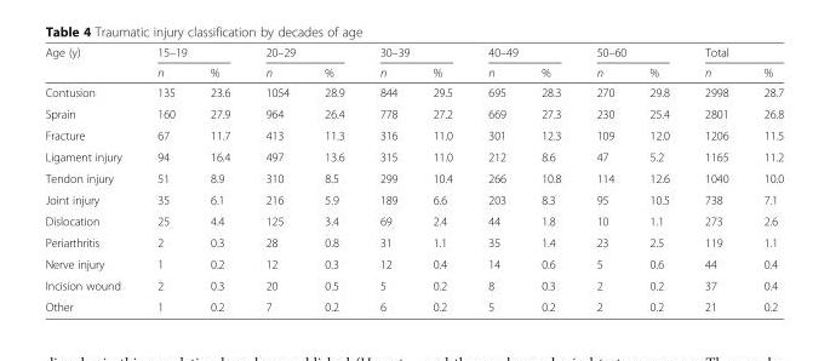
<table><thead><tr><td rowspan="2">Age (y)</td><td colspan="2">15–19</td><td colspan="2">20–29</td><td colspan="2">30–39</td><td colspan="2">40–49</td><td colspan="2">50–60</td><td colspan="2">Total</td></tr><tr><td>n</td><td>%</td><td>n</td><td>%</td><td>n</td><td>%</td><td>n</td><td>%</td><td>n</td><td>%</td><td>n</td><td>%</td></tr></thead><tbody><tr><td>Contusion</td><td>135</td><td>23.6</td><td>1054</td><td>28.9</td><td>844</td><td>29.5</td><td>695</td><td>28.3</td><td>270</td><td>29.8</td><td>2998</td><td>28.7</td></tr><tr><td>Sprain</td><td>160</td><td>27.9</td><td>964</td><td>26.4</td><td>778</td><td>27.2</td><td>669</td><td>27.3</td><td>230</td><td>25.4</td><td>2801</td><td>26.8</td></tr><tr><td>Fracture</td><td>67</td><td>11.7</td><td>413</td><td>11.3</td><td>316</td><td>11.0</td><td>301</td><td>12.3</td><td>109</td><td>12.0</td><td>1206</td><td>11.5</td></tr><tr><td>Ligament injury</td><td>94</td><td>16.4</td><td>497</td><td>13.6</td><td>315</td><td>11.0</td><td>212</td><td>8.6</td><td>47</td><td>5.2</td><td>1165</td><td>11.2</td></tr><tr><td>Tendon injury</td><td>51</td><td>8.9</td><td>310</td><td>8.5</td><td>299</td><td>10.4</td><td>266</td><td>10.8</td><td>114</td><td>12.6</td><td>1040</td><td>10.0</td></tr><tr><td>Joint injury</td><td>35</td><td>6.1</td><td>216</td><td>5.9</td><td>189</td><td>6.6</td><td>203</td><td>8.3</td><td>95</td><td>10.5</td><td>738</td><td>7.1</td></tr><tr><td>Dislocation</td><td>25</td><td>4.4</td><td>125</td><td>3.4</td><td>69</td><td>2.4</td><td>44</td><td>1.8</td><td>10</td><td>1.1</td><td>273</td><td>2.6</td></tr><tr><td>Periarthritis</td><td>2</td><td>0.3</td><td>28</td><td>0.8</td><td>31</td><td>1.1</td><td>35</td><td>1.4</td><td>23</td><td>2.5</td><td>119</td><td>1.1</td></tr><tr><td>Nerve injury</td><td>1</td><td>0.2</td><td>12</td><td>0.3</td><td>12</td><td>0.4</td><td>14</td><td>0.6</td><td>5</td><td>0.6</td><td>44</td><td>0.4</td></tr><tr><td>Incision wound</td><td>2</td><td>0.3</td><td>20</td><td>0.5</td><td>5</td><td>0.2</td><td>8</td><td>0.3</td><td>2</td><td>0.2</td><td>37</td><td>0.4</td></tr><tr><td>Other</td><td>1</td><td>0.2</td><td>7</td><td>0.2</td><td>6</td><td>0.2</td><td>5</td><td>0.2</td><td>2</td><td>0.2</td><td>21</td><td>0.2</td></tr></tbody></table>